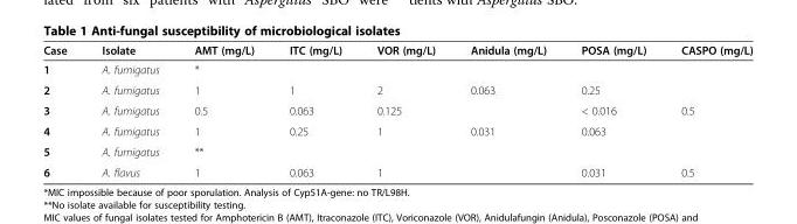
<table><thead><tr><td>Case</td><td>Isolate</td><td>AMT (mg/L)</td><td>ITC (mg/L)</td><td>VOR (mg/L)</td><td>Anidula (mg/L)</td><td>POSA (mg/L)</td><td>CASPO (mg/L)</td></tr></thead><tbody><tr><td>1</td><td>A. fumigatus</td><td>*</td><td></td><td></td><td></td><td></td><td></td></tr><tr><td>2</td><td>A. fumigatus</td><td>1</td><td>1</td><td>2</td><td>0.063</td><td>0.25</td><td></td></tr><tr><td>3</td><td>A. fumigatus</td><td>0.5</td><td>0.063</td><td>0.125</td><td></td><td>&lt; 0.016</td><td>0.5</td></tr><tr><td>4</td><td>A. fumigatus</td><td>1</td><td>0.25</td><td>1</td><td>0.031</td><td>0.063</td><td></td></tr><tr><td>5</td><td>A. fumigatus</td><td>**</td><td></td><td></td><td></td><td></td><td></td></tr><tr><td>6</td><td>A. flavus</td><td>1</td><td>0.063</td><td>1</td><td></td><td>0.031</td><td>0.5</td></tr></tbody></table>